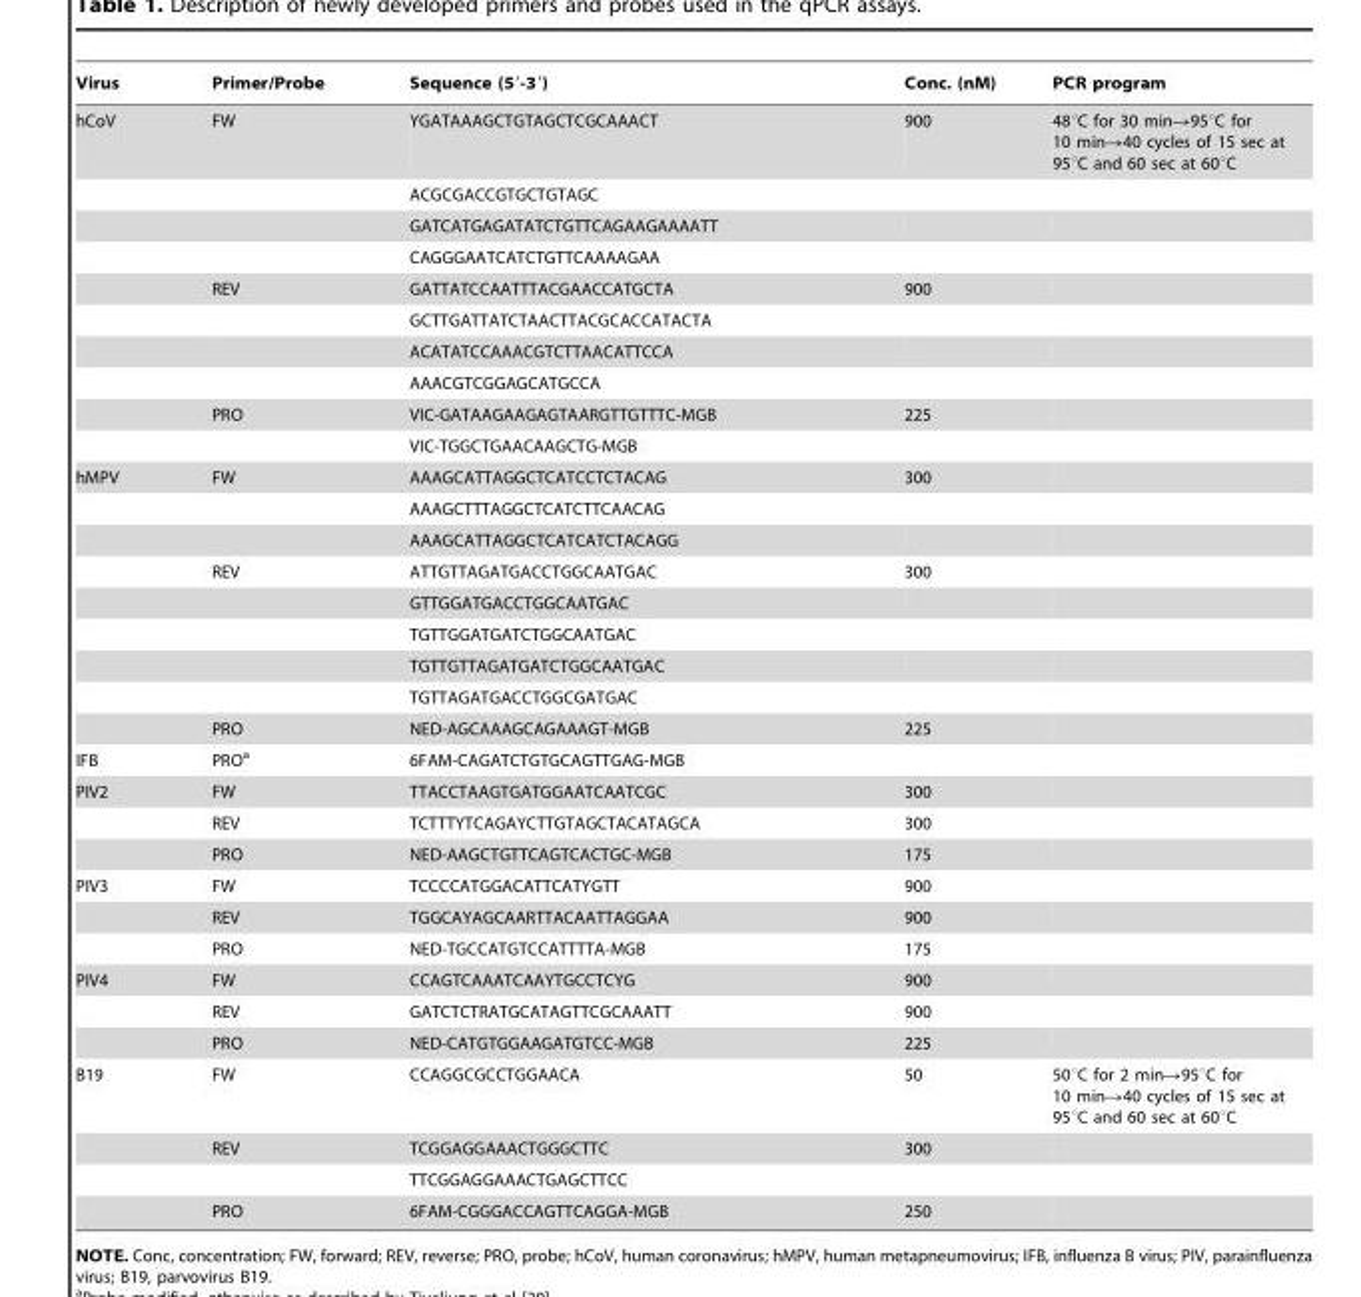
<table><thead><tr><td>Virus</td><td>Primer/Probe</td><td>Sequence (5′-3′)</td><td>Conc. (nM)</td><td>PCR program</td></tr></thead><tbody><tr><td rowspan="10">hCoV</td><td>FW</td><td>YGATAAAGCTGTAGCTCGCAAACT</td><td>900</td><td>48°C for 30 min→95°C for 10 min→40 cycles of 15 sec at 95°C and 60 sec at 60°C</td></tr><tr><td></td><td>ACGCGACCGTGCTGTAGC</td><td></td><td></td></tr><tr><td></td><td>GATCATGAGATATCTGTTCAGAAGAAAATT</td><td></td><td></td></tr><tr><td></td><td>CAGGGAATCATCTGTTCAAAAGAA</td><td></td><td></td></tr><tr><td>REV</td><td>GATTATCCAATTTACGAACCATGCTA</td><td>900</td><td></td></tr><tr><td></td><td>GCTTGATTATCTAACTTACGCACCATACTA</td><td></td><td></td></tr><tr><td></td><td>ACATATCCAAACGTCTTAACATTCCA</td><td></td><td></td></tr><tr><td></td><td>AAACGTCGGAGCATGCCA</td><td></td><td></td></tr><tr><td>PRO</td><td>VIC-GATAAGAAGAGTAARGTTGTTTC-MGB</td><td>225</td><td></td></tr><tr><td></td><td>VIC-TGGCTGAACAAGCTG-MGB</td><td></td><td></td></tr><tr><td rowspan="9">hMPV</td><td>FW</td><td>AAAGCATTAGGCTCATCCTCTACAG</td><td>300</td><td></td></tr><tr><td></td><td>AAAGCTTTAGGCTCATCTTCAACAG</td><td></td><td></td></tr><tr><td></td><td>AAAGCATTAGGCTCATCATCTACAGG</td><td></td><td></td></tr><tr><td>REV</td><td>ATTGTTAGATGACCTGGCAATGAC</td><td>300</td><td></td></tr><tr><td></td><td>GTTGGATGACCTGGCAATGAC</td><td></td><td></td></tr><tr><td></td><td>TGTTGGATGATCTGGCAATGAC</td><td></td><td></td></tr><tr><td></td><td>TGTTGTTAGATGATCTGGCAATGAC</td><td></td><td></td></tr><tr><td></td><td>TGTTAGATGACCTGGCGATGAC</td><td></td><td></td></tr><tr><td>PRO</td><td>NED-AGCAAAGCAGAAAGT-MGB</td><td>225</td><td></td></tr><tr><td>IFB</td><td>PRO<sup>a</sup></td><td>6FAM-CAGATCTGTGCAGTTGAG-MGB</td><td></td><td></td></tr><tr><td rowspan="3">PIV2</td><td>FW</td><td>TTACCTAAGTGATGGAATCAATCGC</td><td>300</td><td></td></tr><tr><td>REV</td><td>TCTTTYTCAGAYCTTGTAGCTACATAGCA</td><td>300</td><td></td></tr><tr><td>PRO</td><td>NED-AAGCTGTTCAGTCACTGC-MGB</td><td>175</td><td></td></tr><tr><td rowspan="3">PIV3</td><td>FW</td><td>TCCCCATGGACATTCATYGTT</td><td>900</td><td></td></tr><tr><td>REV</td><td>TGGCAYAGCAARTTACAATTAGGAA</td><td>900</td><td></td></tr><tr><td>PRO</td><td>NED-TGCCATGTCCATTTTA-MGB</td><td>175</td><td></td></tr><tr><td rowspan="3">PIV4</td><td>FW</td><td>CCAGTCAAATCAAYTGCCTCYG</td><td>900</td><td></td></tr><tr><td>REV</td><td>GATCTCTRATGCATAGTTCGCAAATT</td><td>900</td><td></td></tr><tr><td>PRO</td><td>NED-CATGTGGAAGATGTCC-MGB</td><td>225</td><td></td></tr><tr><td rowspan="4">B19</td><td>FW</td><td>CCAGGCGCCTGGAACA</td><td>50</td><td>50°C for 2 min→95°C for 10 min→40 cycles of 15 sec at 95°C and 60 sec at 60°C</td></tr><tr><td>REV</td><td>TCGGAGGAAACTGGGCTTC</td><td>300</td><td></td></tr><tr><td></td><td>TTCGGAGGAAACTGAGCTTCC</td><td></td><td></td></tr><tr><td>PRO</td><td>6FAM-CGGGACCAGTTCAGGA-MGB</td><td>250</td><td></td></tr></tbody></table>